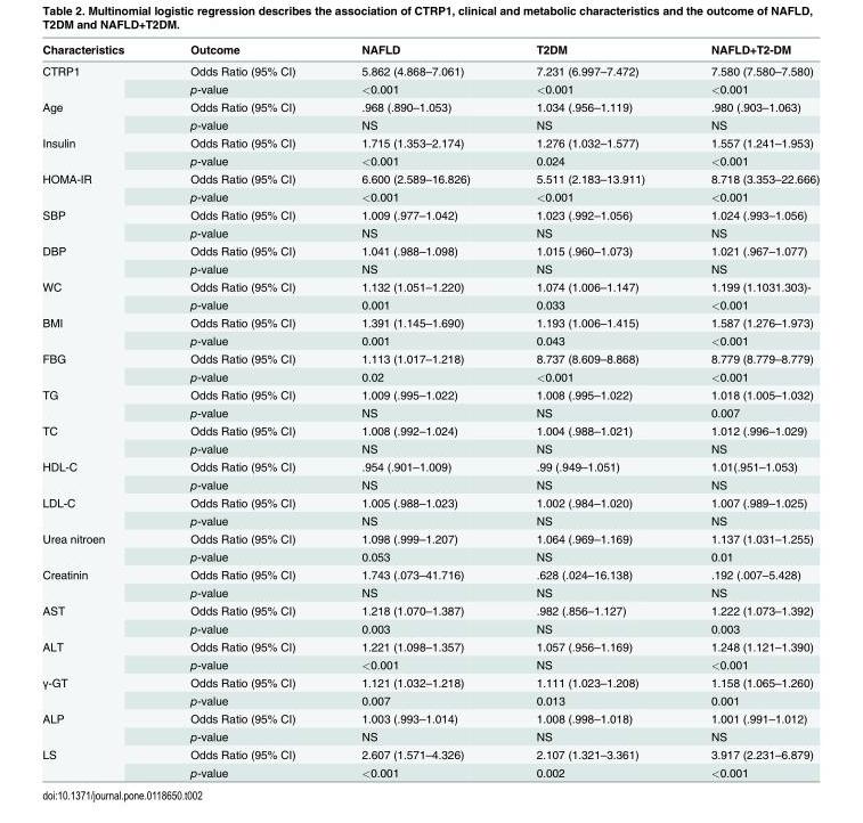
<table><thead><tr><td>Characteristics</td><td>Outcome</td><td>NAFLD</td><td>T2DM</td><td>NAFLD+T2-DM</td></tr></thead><tbody><tr><td rowspan="2">CTRP1</td><td>Odds Ratio (95% CI)</td><td>5.862 (4.868–7.061)</td><td>7.231 (6.997–7.472)</td><td>7.580 (7.580–7.580)</td></tr><tr><td>p-value</td><td>&lt;0.001</td><td>&lt;0.001</td><td>&lt;0.001</td></tr><tr><td rowspan="2">Age</td><td>Odds Ratio (95% CI)</td><td>.968 (.890–1.053)</td><td>1.034 (.956–1.119)</td><td>.980 (.903–1.063)</td></tr><tr><td>p-value</td><td>NS</td><td>NS</td><td>NS</td></tr><tr><td rowspan="2">Insulin</td><td>Odds Ratio (95% CI)</td><td>1.715 (1.353–2.174)</td><td>1.276 (1.032–1.577)</td><td>1.557 (1.241–1.953)</td></tr><tr><td>p-value</td><td>&lt;0.001</td><td>0.024</td><td>&lt;0.001</td></tr><tr><td rowspan="2">HOMA-IR</td><td>Odds Ratio (95% CI)</td><td>6.600 (2.589–16.826)</td><td>5.511 (2.183–13.911)</td><td>8.718 (3.353–22.666)</td></tr><tr><td>p-value</td><td>&lt;0.001</td><td>&lt;0.001</td><td>&lt;0.001</td></tr><tr><td rowspan="2">SBP</td><td>Odds Ratio (95% CI)</td><td>1.009 (.977–1.042)</td><td>1.023 (.992–1.056)</td><td>1.024 (.993–1.056)</td></tr><tr><td>p-value</td><td>NS</td><td>NS</td><td>NS</td></tr><tr><td rowspan="2">DBP</td><td>Odds Ratio (95% CI)</td><td>1.041 (.988–1.098)</td><td>1.015 (.960–1.073)</td><td>1.021 (.967–1.077)</td></tr><tr><td>p-value</td><td>NS</td><td>NS</td><td>NS</td></tr><tr><td rowspan="2">WC</td><td>Odds Ratio (95% CI)</td><td>1.132 (1.051–1.220)</td><td>1.074 (1.006–1.147)</td><td>1.199 (1.1031.303)-</td></tr><tr><td>p-value</td><td>0.001</td><td>0.033</td><td>&lt;0.001</td></tr><tr><td rowspan="2">BMI</td><td>Odds Ratio (95% CI)</td><td>1.391 (1.145–1.690)</td><td>1.193 (1.006–1.415)</td><td>1.587 (1.276–1.973)</td></tr><tr><td>p-value</td><td>0.001</td><td>0.043</td><td>&lt;0.001</td></tr><tr><td rowspan="2">FBG</td><td>Odds Ratio (95% CI)</td><td>1.113 (1.017–1.218)</td><td>8.737 (8.609–8.868)</td><td>8.779 (8.779–8.779)</td></tr><tr><td>p-value</td><td>0.02</td><td>&lt;0.001</td><td>&lt;0.001</td></tr><tr><td rowspan="2">TG</td><td>Odds Ratio (95% CI)</td><td>1.009 (.995–1.022)</td><td>1.008 (.995–1.022)</td><td>1.018 (1.005–1.032)</td></tr><tr><td>p-value</td><td>NS</td><td>NS</td><td>0.007</td></tr><tr><td rowspan="2">TC</td><td>Odds Ratio (95% CI)</td><td>1.008 (.992–1.024)</td><td>1.004 (.988–1.021)</td><td>1.012 (.996–1.029)</td></tr><tr><td>p-value</td><td>NS</td><td>NS</td><td>NS</td></tr><tr><td rowspan="2">HDL-C</td><td>Odds Ratio (95% CI)</td><td>.954 (.901–1.009)</td><td>.99 (.949–1.051)</td><td>1.01(.951–1.053)</td></tr><tr><td>p-value</td><td>NS</td><td>NS</td><td>NS</td></tr><tr><td rowspan="2">LDL-C</td><td>Odds Ratio (95% CI)</td><td>1.005 (.988–1.023)</td><td>1.002 (.984–1.020)</td><td>1.007 (.989–1.025)</td></tr><tr><td>p-value</td><td>NS</td><td>NS</td><td>NS</td></tr><tr><td rowspan="2">Urea nitroen</td><td>Odds Ratio (95% CI)</td><td>1.098 (.999–1.207)</td><td>1.064 (.969–1.169)</td><td>1.137 (1.031–1.255)</td></tr><tr><td>p-value</td><td>0.053</td><td>NS</td><td>0.01</td></tr><tr><td rowspan="2">Creatinin</td><td>Odds Ratio (95% CI)</td><td>1.743 (.073–41.716)</td><td>.628 (.024–16.138)</td><td>.192 (.007–5.428)</td></tr><tr><td>p-value</td><td>NS</td><td>NS</td><td>NS</td></tr><tr><td rowspan="2">AST</td><td>Odds Ratio (95% CI)</td><td>1.218 (1.070–1.387)</td><td>.982 (.856–1.127)</td><td>1.222 (1.073–1.392)</td></tr><tr><td>p-value</td><td>0.003</td><td>NS</td><td>0.003</td></tr><tr><td rowspan="2">ALT</td><td>Odds Ratio (95% CI)</td><td>1.221 (1.098–1.357)</td><td>1.057 (.956–1.169)</td><td>1.248 (1.121–1.390)</td></tr><tr><td>p-value</td><td>&lt;0.001</td><td>NS</td><td>&lt;0.001</td></tr><tr><td rowspan="2">γ-GT</td><td>Odds Ratio (95% CI)</td><td>1.121 (1.032–1.218)</td><td>1.111 (1.023–1.208)</td><td>1.158 (1.065–1.260)</td></tr><tr><td>p-value</td><td>0.007</td><td>0.013</td><td>0.001</td></tr><tr><td rowspan="2">ALP</td><td>Odds Ratio (95% CI)</td><td>1.003 (.993–1.014)</td><td>1.008 (.998–1.018)</td><td>1.001 (.991–1.012)</td></tr><tr><td>p-value</td><td>NS</td><td>NS</td><td>NS</td></tr><tr><td rowspan="2">LS</td><td>Odds Ratio (95% CI)</td><td>2.607 (1.571–4.326)</td><td>2.107 (1.321–3.361)</td><td>3.917 (2.231–6.879)</td></tr><tr><td>p-value</td><td>&lt;0.001</td><td>0.002</td><td>&lt;0.001</td></tr></tbody></table>